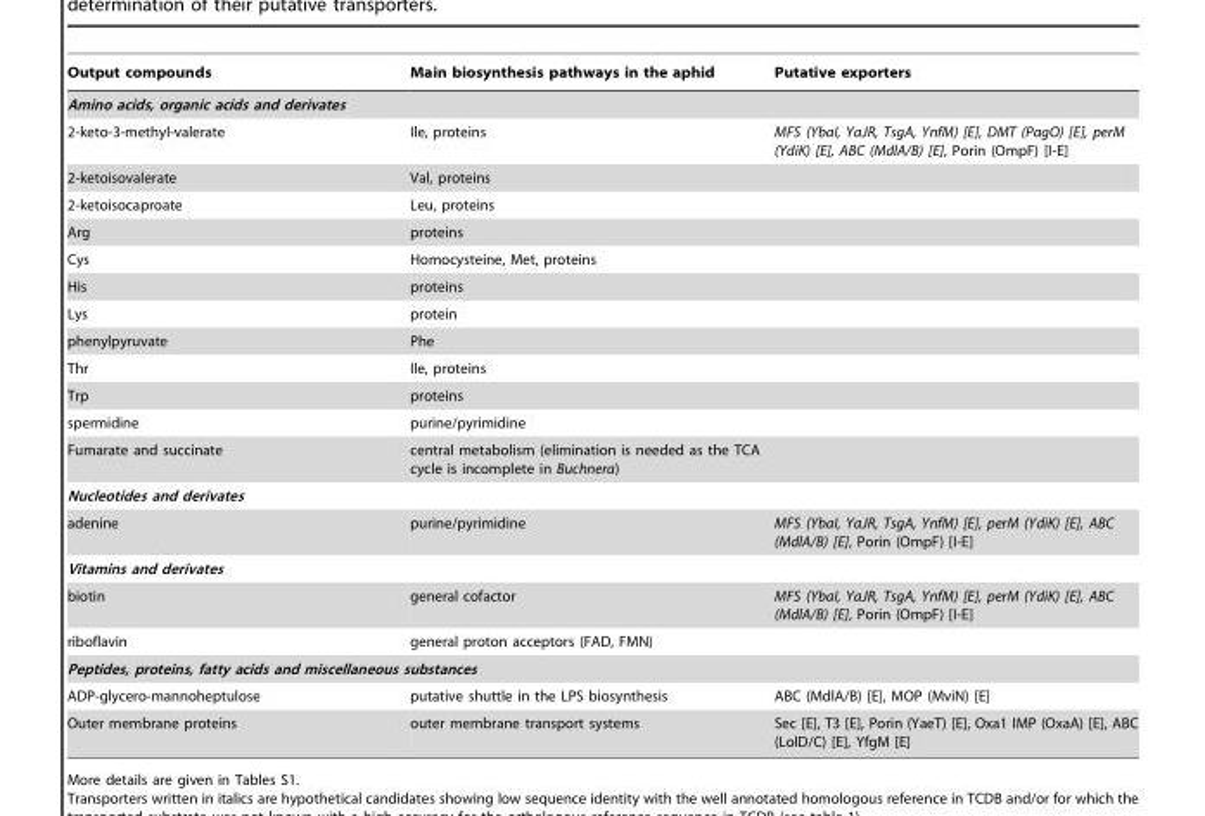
<table><thead><tr><td>Output compounds</td><td>Main biosynthesis pathways in the aphid</td><td>Putative exporters</td></tr></thead><tbody><tr><td colspan="3">Amino acids, organic acids and derivates</td></tr><tr><td>2-keto-3-methyl-valerate</td><td>Ile, proteins</td><td>MFS (YbaI, YaJR, TsgA, YnfM) [E], DMT (PagO) [E], perM (YdiK) [E], ABC (MdlA/B) [E], Porin (OmpF) [I-E]</td></tr><tr><td>2-ketoisovalerate</td><td>Val, proteins</td><td></td></tr><tr><td>2-ketoisocaproate</td><td>Leu, proteins</td><td></td></tr><tr><td>Arg</td><td>proteins</td><td></td></tr><tr><td>Cys</td><td>Homocysteine, Met, proteins</td><td></td></tr><tr><td>His</td><td>proteins</td><td></td></tr><tr><td>Lys</td><td>protein</td><td></td></tr><tr><td>phenylpyruvate</td><td>Phe</td><td></td></tr><tr><td>Thr</td><td>Ile, proteins</td><td></td></tr><tr><td>Trp</td><td>proteins</td><td></td></tr><tr><td>spermidine</td><td>purine/pyrimidine</td><td></td></tr><tr><td>Fumarate and succinate</td><td>central metabolism (elimination is needed as the TCA cycle is incomplete in Buchnera)</td><td></td></tr><tr><td colspan="3">Nucleotides and derivates</td></tr><tr><td>adenine</td><td>purine/pyrimidine</td><td>MFS (YbaI, YaJR, TsgA, YnfM) [E], perM (YdiK) [E], ABC (MdlA/B) [E], Porin (OmpF) [I-E]</td></tr><tr><td colspan="3">Vitamins and derivates</td></tr><tr><td>biotin</td><td>general cofactor</td><td>MFS (YbaI, YaJR, TsgA, YnfM) [E], perM (YdiK) [E], ABC (MdlA/B) [E], Porin (OmpF) [I-E]</td></tr><tr><td>riboflavin</td><td>general proton acceptors (FAD, FMN)</td><td></td></tr><tr><td colspan="3">Peptides, proteins, fatty acids and miscellaneous substances</td></tr><tr><td>ADP-glycero-mannoheptulose</td><td>putative shuttle in the LPS biosynthesis</td><td>ABC (MdlA/B) [E], MOP (MviN) [E]</td></tr><tr><td>Outer membrane proteins</td><td>outer membrane transport systems</td><td>Sec [E], T3 [E], Porin (YaeT) [E], Oxa1 IMP (OxaA) [E], ABC (LolD/C) [E], YfgM [E]</td></tr></tbody></table>